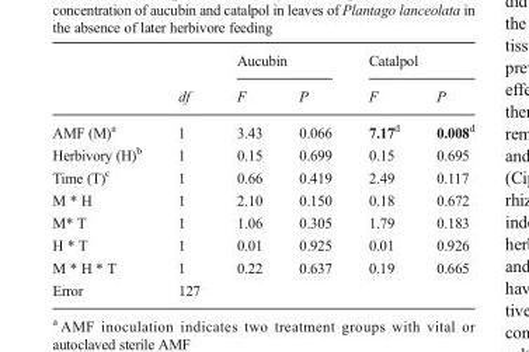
<table><thead><tr><td rowspan="2"></td><td rowspan="2">df</td><td colspan="2">Aucubin</td><td colspan="2">Catalpol</td></tr><tr><td>F</td><td>P</td><td>F</td><td>P</td></tr></thead><tbody><tr><td>AMF (M)<sup>a</sup></td><td>1</td><td>3.43</td><td>0.066</td><td>7.17<sup>d</sup></td><td>0.008<sup>d</sup></td></tr><tr><td>Herbivory (H)<sup>b</sup></td><td>1</td><td>0.15</td><td>0.699</td><td>0.15</td><td>0.695</td></tr><tr><td>Time (T)<sup>c</sup></td><td>1</td><td>0.66</td><td>0.419</td><td>2.49</td><td>0.117</td></tr><tr><td>M * H</td><td>1</td><td>2.10</td><td>0.150</td><td>0.18</td><td>0.672</td></tr><tr><td>M* T</td><td>1</td><td>1.06</td><td>0.305</td><td>1.79</td><td>0.183</td></tr><tr><td>H * T</td><td>1</td><td>0.01</td><td>0.925</td><td>0.01</td><td>0.926</td></tr><tr><td>M * H * T</td><td>1</td><td>0.22</td><td>0.637</td><td>0.19</td><td>0.665</td></tr><tr><td>Error</td><td>127</td><td></td><td></td><td></td><td></td></tr></tbody></table>